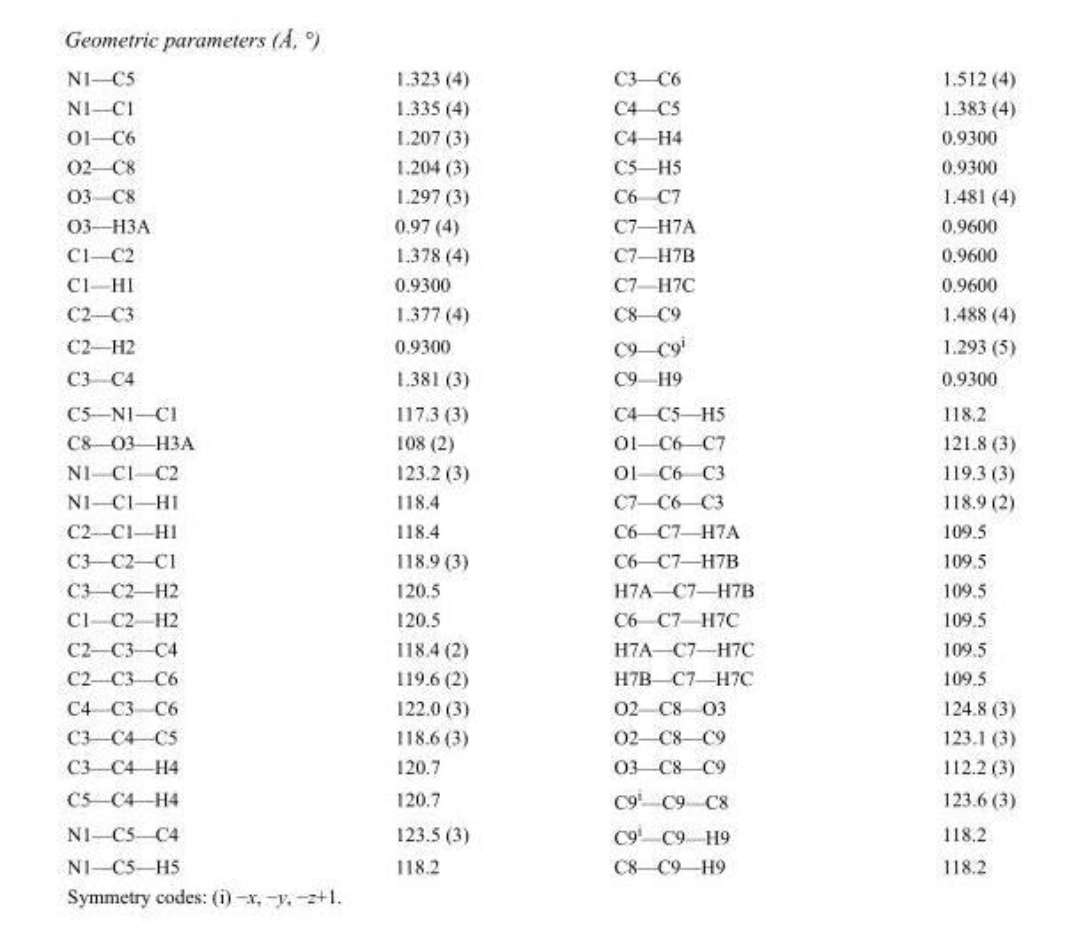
<table><tbody><tr><td>N1—C5</td><td>1.323 (4)</td><td>C3—C6</td><td>1.512 (4)</td></tr><tr><td>N1—C1</td><td>1.335 (4)</td><td>C4—C5</td><td>1.383 (4)</td></tr><tr><td>O1—C6</td><td>1.207 (3)</td><td>C4—H4</td><td>0.9300</td></tr><tr><td>O2—C8</td><td>1.204 (3)</td><td>C5—H5</td><td>0.9300</td></tr><tr><td>O3—C8</td><td>1.297 (3)</td><td>C6—C7</td><td>1.481 (4)</td></tr><tr><td>O3—H3A</td><td>0.97 (4)</td><td>C7—H7A</td><td>0.9600</td></tr><tr><td>C1—C2</td><td>1.378 (4)</td><td>C7—H7B</td><td>0.9600</td></tr><tr><td>C1—H1</td><td>0.9300</td><td>C7—H7C</td><td>0.9600</td></tr><tr><td>C2—C3</td><td>1.377 (4)</td><td>C8—C9</td><td>1.488 (4)</td></tr><tr><td>C2—H2</td><td>0.9300</td><td>C9—C9<sup>i</sup></td><td>1.293 (5)</td></tr><tr><td>C3—C4</td><td>1.381 (3)</td><td>C9—H9</td><td>0.9300</td></tr><tr><td>C5—N1—C1</td><td>117.3 (3)</td><td>C4—C5—H5</td><td>118.2</td></tr><tr><td>C8—O3—H3A</td><td>108 (2)</td><td>O1—C6—C7</td><td>121.8 (3)</td></tr><tr><td>N1—C1—C2</td><td>123.2 (3)</td><td>O1—C6—C3</td><td>119.3 (3)</td></tr><tr><td>N1—C1—H1</td><td>118.4</td><td>C7—C6—C3</td><td>118.9 (2)</td></tr><tr><td>C2—C1—H1</td><td>118.4</td><td>C6—C7—H7A</td><td>109.5</td></tr><tr><td>C3—C2—C1</td><td>118.9 (3)</td><td>C6—C7—H7B</td><td>109.5</td></tr><tr><td>C3—C2—H2</td><td>120.5</td><td>H7A—C7—H7B</td><td>109.5</td></tr><tr><td>C1—C2—H2</td><td>120.5</td><td>C6—C7—H7C</td><td>109.5</td></tr><tr><td>C2—C3—C4</td><td>118.4 (2)</td><td>H7A—C7—H7C</td><td>109.5</td></tr><tr><td>C2—C3—C6</td><td>119.6 (2)</td><td>H7B—C7—H7C</td><td>109.5</td></tr><tr><td>C4—C3—C6</td><td>122.0 (3)</td><td>O2—C8—O3</td><td>124.8 (3)</td></tr><tr><td>C3—C4—C5</td><td>118.6 (3)</td><td>O2—C8—C9</td><td>123.1 (3)</td></tr><tr><td>C3—C4—H4</td><td>120.7</td><td>O3—C8—C9</td><td>112.2 (3)</td></tr><tr><td>C5—C4—H4</td><td>120.7</td><td>C9<sup>i</sup>—C9—C8</td><td>123.6 (3)</td></tr><tr><td>N1—C5—C4</td><td>123.5 (3)</td><td>C9<sup>i</sup>—C9—H9</td><td>118.2</td></tr><tr><td>N1—C5—H5</td><td>118.2</td><td>C8—C9—H9</td><td>118.2</td></tr></tbody></table>